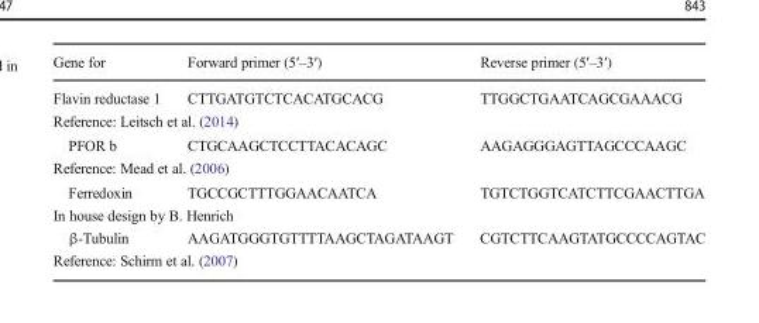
<table><thead><tr><td>Gene for</td><td>Forward primer (5′–3′)</td><td>Reverse primer (5′–3′)</td></tr></thead><tbody><tr><td>Flavin reductase 1</td><td>CTTGATGTCTCACATGCACG</td><td>TTGGCTGAATCAGCGAAACG</td></tr><tr><td colspan="3">Reference: Leitsch et al. (2014)</td></tr><tr><td>PFOR b</td><td>CTGCAAGCTCCTTACACAGC</td><td>AAGAGGGAGTTAGCCCAAGC</td></tr><tr><td colspan="3">Reference: Mead et al. (2006)</td></tr><tr><td>Ferredoxin</td><td>TGCCGCTTTGGAACAATCA</td><td>TGTCTGGTCATCTTCGAACTTGA</td></tr><tr><td colspan="3">In house design by B. Henrich</td></tr><tr><td>β-Tubulin</td><td>AAGATGGGTGTTTTAAGCTAGATAAGT</td><td>CGTCTTCAAGTATGCCCCAGTAC</td></tr><tr><td colspan="3">Reference: Schirm et al. (2007)</td></tr></tbody></table>